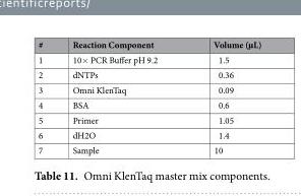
<table><thead><tr><td>#</td><td>Reaction Component</td><td>Volume (µL)</td></tr></thead><tbody><tr><td>1</td><td>10× PCR Buffer pH 9.2</td><td>1.5</td></tr><tr><td>2</td><td>dNTPs</td><td>0.36</td></tr><tr><td>3</td><td>Omni KlenTaq</td><td>0.09</td></tr><tr><td>4</td><td>BSA</td><td>0.6</td></tr><tr><td>5</td><td>Primer</td><td>1.05</td></tr><tr><td>6</td><td>dH2O</td><td>1.4</td></tr><tr><td>7</td><td>Sample</td><td>10</td></tr></tbody></table>